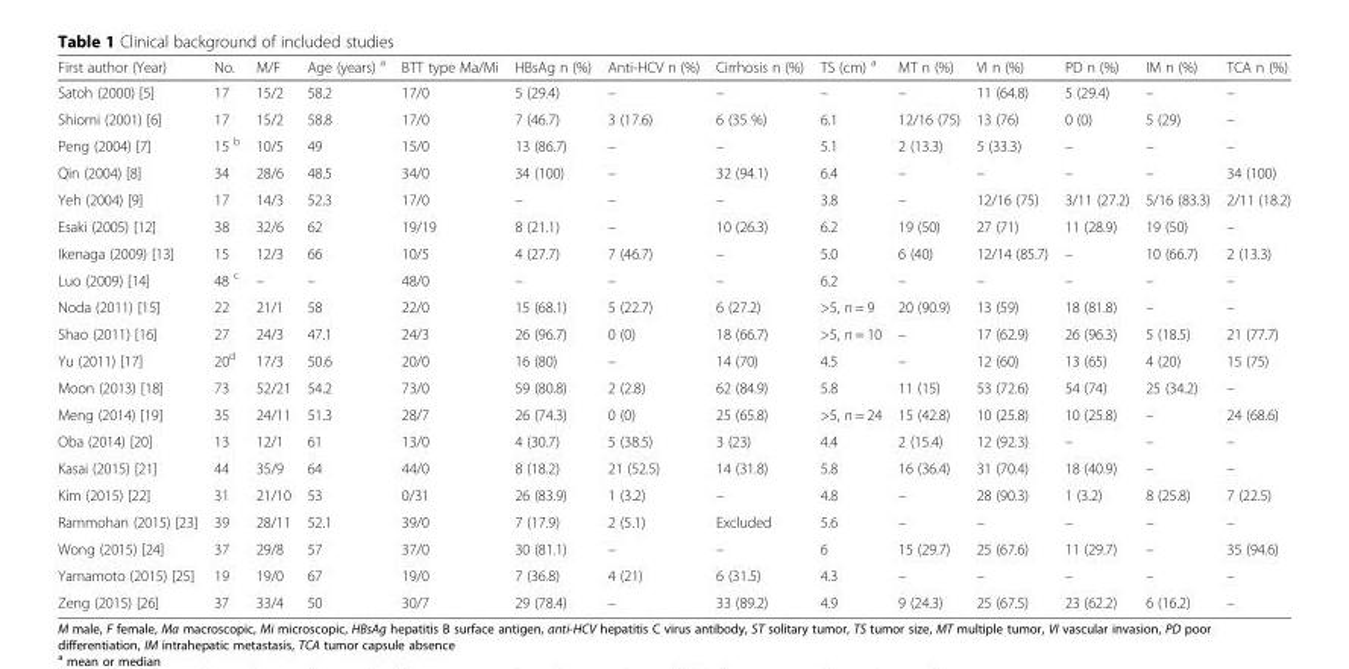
<table><thead><tr><td>First author (Year)</td><td>No.</td><td>M/F</td><td>Age (years) <sup>a</sup></td><td>BTT type Ma/Mi</td><td>HBsAg n (%)</td><td>Anti-HCV n (%)</td><td>Cirrhosis n (%)</td><td>TS (cm) <sup>a</sup></td><td>MT n (%)</td><td>VI n (%)</td><td>PD n (%)</td><td>IM n (%)</td><td>TCA n (%)</td></tr></thead><tbody><tr><td>Satoh (2000) [5]</td><td>17</td><td>15/2</td><td>58.2</td><td>17/0</td><td>5 (29.4)</td><td>–</td><td>–</td><td>–</td><td>–</td><td>11 (64.8)</td><td>5 (29.4)</td><td>–</td><td>–</td></tr><tr><td>Shiomi (2001) [6]</td><td>17</td><td>15/2</td><td>58.8</td><td>17/0</td><td>7 (46.7)</td><td>3 (17.6)</td><td>6 (35 %)</td><td>6.1</td><td>12/16 (75)</td><td>13 (76)</td><td>0 (0)</td><td>5 (29)</td><td>–</td></tr><tr><td>Peng (2004) [7]</td><td>15 <sup>b</sup></td><td>10/5</td><td>49</td><td>15/0</td><td>13 (86.7)</td><td>–</td><td>–</td><td>5.1</td><td>2 (13.3)</td><td>5 (33.3)</td><td>–</td><td>–</td><td>–</td></tr><tr><td>Qin (2004) [8]</td><td>34</td><td>28/6</td><td>48.5</td><td>34/0</td><td>34 (100)</td><td>–</td><td>32 (94.1)</td><td>6.4</td><td>–</td><td>–</td><td>–</td><td>–</td><td>34 (100)</td></tr><tr><td>Yeh (2004) [9]</td><td>17</td><td>14/3</td><td>52.3</td><td>17/0</td><td>–</td><td>–</td><td>–</td><td>3.8</td><td>–</td><td>12/16 (75)</td><td>3/11 (27.2)</td><td>5/16 (83.3)</td><td>2/11 (18.2)</td></tr><tr><td>Esaki (2005) [12]</td><td>38</td><td>32/6</td><td>62</td><td>19/19</td><td>8 (21.1)</td><td>–</td><td>10 (26.3)</td><td>6.2</td><td>19 (50)</td><td>27 (71)</td><td>11 (28.9)</td><td>19 (50)</td><td>–</td></tr><tr><td>Ikenaga (2009) [13]</td><td>15</td><td>12/3</td><td>66</td><td>10/5</td><td>4 (27.7)</td><td>7 (46.7)</td><td>–</td><td>5.0</td><td>6 (40)</td><td>12/14 (85.7)</td><td>–</td><td>10 (66.7)</td><td>2 (13.3)</td></tr><tr><td>Luo (2009) [14]</td><td>48 <sup>c</sup></td><td>–</td><td>–</td><td>48/0</td><td>–</td><td>–</td><td>–</td><td>6.2</td><td>–</td><td>–</td><td>–</td><td>–</td><td>–</td></tr><tr><td>Noda (2011) [15]</td><td>22</td><td>21/1</td><td>58</td><td>22/0</td><td>15 (68.1)</td><td>5 (22.7)</td><td>6 (27.2)</td><td>&gt;5, n = 9</td><td>20 (90.9)</td><td>13 (59)</td><td>18 (81.8)</td><td>–</td><td>–</td></tr><tr><td>Shao (2011) [16]</td><td>27</td><td>24/3</td><td>47.1</td><td>24/3</td><td>26 (96.7)</td><td>0 (0)</td><td>18 (66.7)</td><td>&gt;5, n = 10</td><td>–</td><td>17 (62.9)</td><td>26 (96.3)</td><td>5 (18.5)</td><td>21 (77.7)</td></tr><tr><td>Yu (2011) [17]</td><td>20<sup>d</sup></td><td>17/3</td><td>50.6</td><td>20/0</td><td>16 (80)</td><td>–</td><td>14 (70)</td><td>4.5</td><td>–</td><td>12 (60)</td><td>13 (65)</td><td>4 (20)</td><td>15 (75)</td></tr><tr><td>Moon (2013) [18]</td><td>73</td><td>52/21</td><td>54.2</td><td>73/0</td><td>59 (80.8)</td><td>2 (2.8)</td><td>62 (84.9)</td><td>5.8</td><td>11 (15)</td><td>53 (72.6)</td><td>54 (74)</td><td>25 (34.2)</td><td>–</td></tr><tr><td>Meng (2014) [19]</td><td>35</td><td>24/11</td><td>51.3</td><td>28/7</td><td>26 (74.3)</td><td>0 (0)</td><td>25 (65.8)</td><td>&gt;5, n = 24</td><td>15 (42.8)</td><td>10 (25.8)</td><td>10 (25.8)</td><td>–</td><td>24 (68.6)</td></tr><tr><td>Oba (2014) [20]</td><td>13</td><td>12/1</td><td>61</td><td>13/0</td><td>4 (30.7)</td><td>5 (38.5)</td><td>3 (23)</td><td>4.4</td><td>2 (15.4)</td><td>12 (92.3)</td><td>–</td><td>–</td><td>–</td></tr><tr><td>Kasai (2015) [21]</td><td>44</td><td>35/9</td><td>64</td><td>44/0</td><td>8 (18.2)</td><td>21 (52.5)</td><td>14 (31.8)</td><td>5.8</td><td>16 (36.4)</td><td>31 (70.4)</td><td>18 (40.9)</td><td>–</td><td>–</td></tr><tr><td>Kim (2015) [22]</td><td>31</td><td>21/10</td><td>53</td><td>0/31</td><td>26 (83.9)</td><td>1 (3.2)</td><td>–</td><td>4.8</td><td>–</td><td>28 (90.3)</td><td>1 (3.2)</td><td>8 (25.8)</td><td>7 (22.5)</td></tr><tr><td>Rammohan (2015) [23]</td><td>39</td><td>28/11</td><td>52.1</td><td>39/0</td><td>7 (17.9)</td><td>2 (5.1)</td><td>Excluded</td><td>5.6</td><td>–</td><td>–</td><td>–</td><td>–</td><td>–</td></tr><tr><td>Wong (2015) [24]</td><td>37</td><td>29/8</td><td>57</td><td>37/0</td><td>30 (81.1)</td><td>–</td><td>–</td><td>6</td><td>15 (29.7)</td><td>25 (67.6)</td><td>11 (29.7)</td><td>–</td><td>35 (94.6)</td></tr><tr><td>Yamamoto (2015) [25]</td><td>19</td><td>19/0</td><td>67</td><td>19/0</td><td>7 (36.8)</td><td>4 (21)</td><td>6 (31.5)</td><td>4.3</td><td>–</td><td>–</td><td>–</td><td>–</td><td>–</td></tr><tr><td>Zeng (2015) [26]</td><td>37</td><td>33/4</td><td>50</td><td>30/7</td><td>29 (78.4)</td><td>–</td><td>33 (89.2)</td><td>4.9</td><td>9 (24.3)</td><td>25 (67.5)</td><td>23 (62.2)</td><td>6 (16.2)</td><td>–</td></tr></tbody></table>